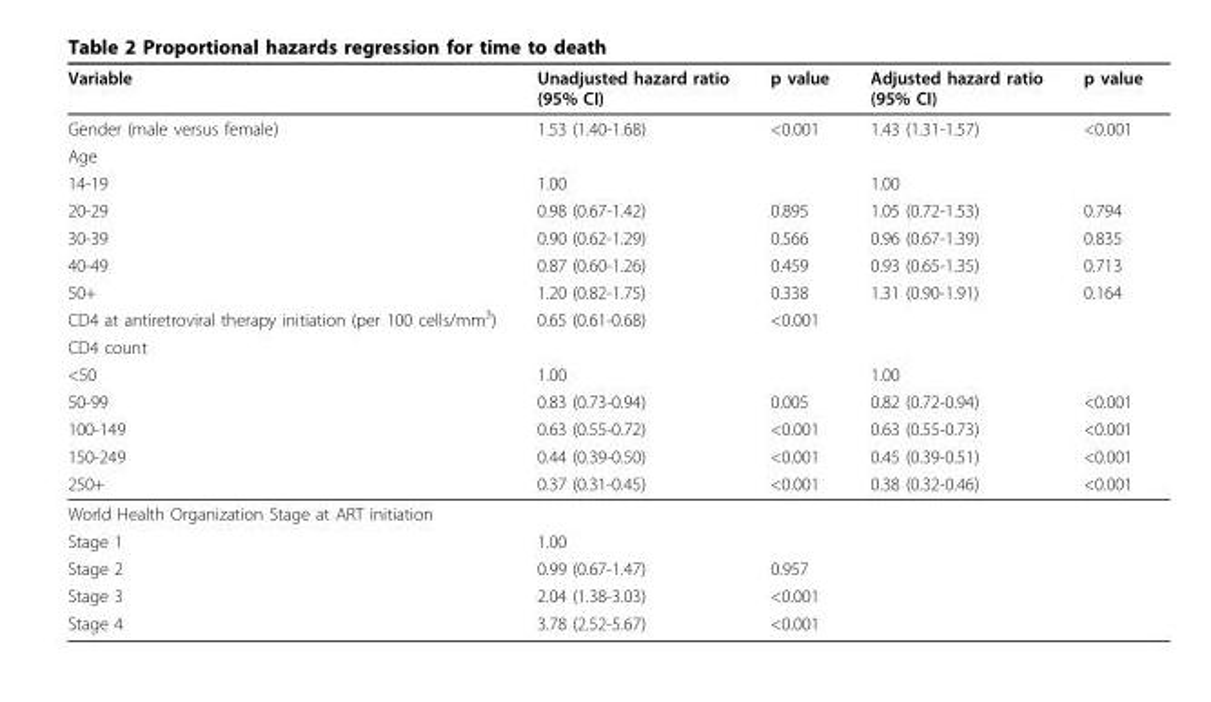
<table><thead><tr><td>Variable</td><td>Unadjusted hazard ratio (95% CI)</td><td>p value</td><td>Adjusted hazard ratio (95% CI)</td><td>p value</td></tr></thead><tbody><tr><td>Gender (male versus female)</td><td>1.53 (1.40-1.68)</td><td>&lt;0.001</td><td>1.43 (1.31-1.57)</td><td>&lt;0.001</td></tr><tr><td colspan="5">Age</td></tr><tr><td>14-19</td><td>1.00</td><td></td><td>1.00</td><td></td></tr><tr><td>20-29</td><td>0.98 (0.67-1.42)</td><td>0.895</td><td>1.05 (0.72-1.53)</td><td>0.794</td></tr><tr><td>30-39</td><td>0.90 (0.62-1.29)</td><td>0.566</td><td>0.96 (0.67-1.39)</td><td>0.835</td></tr><tr><td>40-49</td><td>0.87 (0.60-1.26)</td><td>0.459</td><td>0.93 (0.65-1.35)</td><td>0.713</td></tr><tr><td>50+</td><td>1.20 (0.82-1.75)</td><td>0.338</td><td>1.31 (0.90-1.91)</td><td>0.164</td></tr><tr><td>CD4 at antiretroviral therapy initiation (per 100 cells/mm<sup>3</sup>)</td><td>0.65 (0.61-0.68)</td><td>&lt;0.001</td><td></td><td></td></tr><tr><td colspan="5">CD4 count</td></tr><tr><td>&lt;50</td><td>1.00</td><td></td><td>1.00</td><td></td></tr><tr><td>50-99</td><td>0.83 (0.73-0.94)</td><td>0.005</td><td>0.82 (0.72-0.94)</td><td>&lt;0.001</td></tr><tr><td>100-149</td><td>0.63 (0.55-0.72)</td><td>&lt;0.001</td><td>0.63 (0.55-0.73)</td><td>&lt;0.001</td></tr><tr><td>150-249</td><td>0.44 (0.39-0.50)</td><td>&lt;0.001</td><td>0.45 (0.39-0.51)</td><td>&lt;0.001</td></tr><tr><td>250+</td><td>0.37 (0.31-0.45)</td><td>&lt;0.001</td><td>0.38 (0.32-0.46)</td><td>&lt;0.001</td></tr><tr><td colspan="5">World Health Organization Stage at ART initiation</td></tr><tr><td>Stage 1</td><td>1.00</td><td></td><td></td><td></td></tr><tr><td>Stage 2</td><td>0.99 (0.67-1.47)</td><td>0.957</td><td></td><td></td></tr><tr><td>Stage 3</td><td>2.04 (1.38-3.03)</td><td>&lt;0.001</td><td></td><td></td></tr><tr><td>Stage 4</td><td>3.78 (2.52-5.67)</td><td>&lt;0.001</td><td></td><td></td></tr></tbody></table>